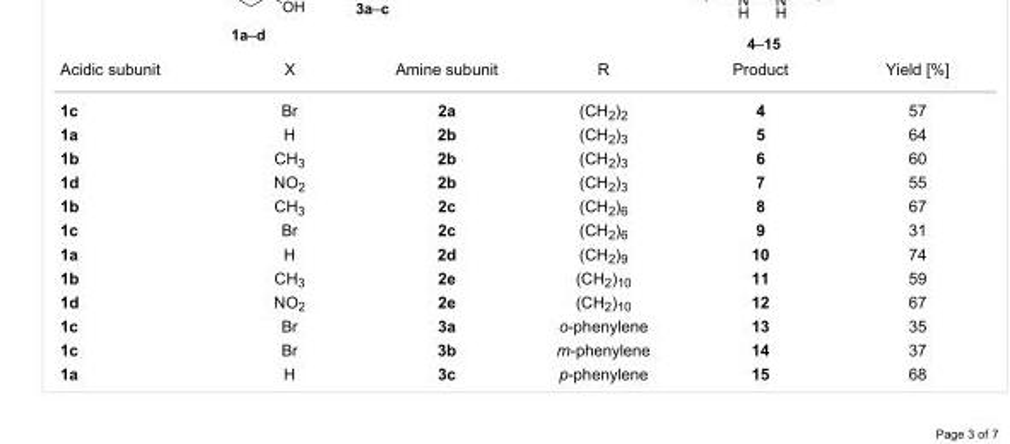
<table><tbody><tr><td>Acidic subunit</td><td>X</td><td>Amine subunit</td><td>R</td><td>Product</td><td>Yield [%]</td></tr><tr><td>1c</td><td>Br</td><td>2a</td><td>(CH<sub>2</sub>)<sub>2</sub></td><td>4</td><td>57</td></tr><tr><td>1a</td><td>H</td><td>2b</td><td>(CH<sub>2</sub>)<sub>3</sub></td><td>5</td><td>64</td></tr><tr><td>1b</td><td>CH<sub>3</sub></td><td>2b</td><td>(CH<sub>2</sub>)<sub>3</sub></td><td>6</td><td>60</td></tr><tr><td>1d</td><td>NO<sub>2</sub></td><td>2b</td><td>(CH<sub>2</sub>)<sub>3</sub></td><td>7</td><td>55</td></tr><tr><td>1b</td><td>CH<sub>3</sub></td><td>2c</td><td>(CH<sub>2</sub>)<sub>6</sub></td><td>8</td><td>67</td></tr><tr><td>1c</td><td>Br</td><td>2c</td><td>(CH<sub>2</sub>)<sub>6</sub></td><td>9</td><td>31</td></tr><tr><td>1a</td><td>H</td><td>2d</td><td>(CH<sub>2</sub>)<sub>9</sub></td><td>10</td><td>74</td></tr><tr><td>1b</td><td>CH<sub>3</sub></td><td>2e</td><td>(CH<sub>2</sub>)<sub>10</sub></td><td>11</td><td>59</td></tr><tr><td>1d</td><td>NO<sub>2</sub></td><td>2e</td><td>(CH<sub>2</sub>)<sub>10</sub></td><td>12</td><td>67</td></tr><tr><td>1c</td><td>Br</td><td>3a</td><td>o-phenylene</td><td>13</td><td>35</td></tr><tr><td>1c</td><td>Br</td><td>3b</td><td>m-phenylene</td><td>14</td><td>37</td></tr><tr><td>1a</td><td>H</td><td>3c</td><td>p-phenylene</td><td>15</td><td>68</td></tr></tbody></table>